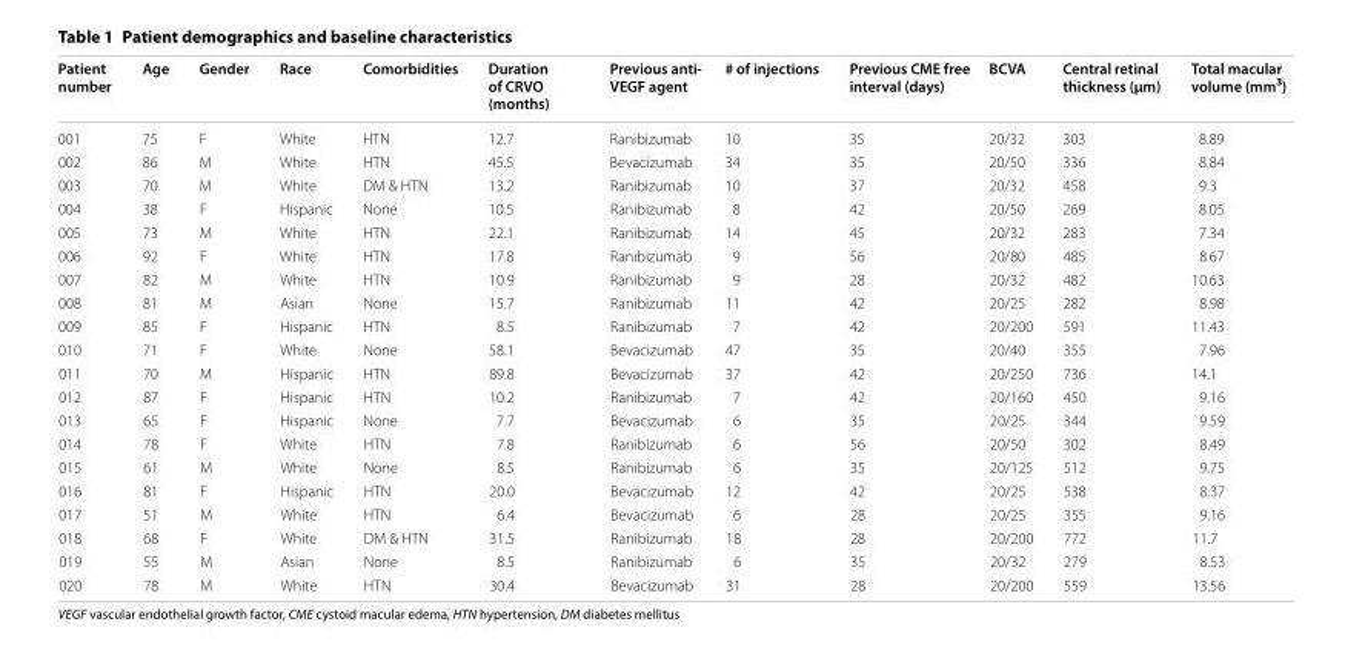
<table><thead><tr><td>Patient number</td><td>Age</td><td>Gender</td><td>Race</td><td>Comorbidities</td><td>Duration of CRVO (months)</td><td>Previous anti- VEGF agent</td><td># of injections</td><td>Previous CME free interval (days)</td><td>BCVA</td><td>Central retinal thickness (µm)</td><td>Total macular volume (mm<sup>3</sup>)</td></tr></thead><tbody><tr><td>001</td><td>75</td><td>F</td><td>White</td><td>HTN</td><td>12.7</td><td>Ranibizumab</td><td>10</td><td>35</td><td>20/32</td><td>303</td><td>8.89</td></tr><tr><td>002</td><td>86</td><td>M</td><td>White</td><td>HTN</td><td>45.5</td><td>Bevacizumab</td><td>34</td><td>35</td><td>20/50</td><td>336</td><td>8.84</td></tr><tr><td>003</td><td>70</td><td>M</td><td>White</td><td>DM &amp; HTN</td><td>13.2</td><td>Ranibizumab</td><td>10</td><td>37</td><td>20/32</td><td>458</td><td>9.3</td></tr><tr><td>004</td><td>38</td><td>F</td><td>Hispanic</td><td>None</td><td>10.5</td><td>Ranibizumab</td><td>8</td><td>42</td><td>20/50</td><td>269</td><td>8.05</td></tr><tr><td>005</td><td>73</td><td>M</td><td>White</td><td>HTN</td><td>22.1</td><td>Ranibizumab</td><td>14</td><td>45</td><td>20/32</td><td>283</td><td>7.34</td></tr><tr><td>006</td><td>92</td><td>F</td><td>White</td><td>HTN</td><td>17.8</td><td>Ranibizumab</td><td>9</td><td>56</td><td>20/80</td><td>485</td><td>8.67</td></tr><tr><td>007</td><td>82</td><td>M</td><td>White</td><td>HTN</td><td>10.9</td><td>Ranibizumab</td><td>9</td><td>28</td><td>20/32</td><td>482</td><td>10.63</td></tr><tr><td>008</td><td>81</td><td>M</td><td>Asian</td><td>None</td><td>15.7</td><td>Ranibizumab</td><td>11</td><td>42</td><td>20/25</td><td>282</td><td>8.98</td></tr><tr><td>009</td><td>85</td><td>F</td><td>Hispanic</td><td>HTN</td><td>8.5</td><td>Ranibizumab</td><td>7</td><td>42</td><td>20/200</td><td>591</td><td>11.43</td></tr><tr><td>010</td><td>71</td><td>F</td><td>White</td><td>None</td><td>58.1</td><td>Bevacizumab</td><td>47</td><td>35</td><td>20/40</td><td>355</td><td>7.96</td></tr><tr><td>011</td><td>70</td><td>M</td><td>Hispanic</td><td>HTN</td><td>89.8</td><td>Bevacizumab</td><td>37</td><td>42</td><td>20/250</td><td>736</td><td>14.1</td></tr><tr><td>012</td><td>87</td><td>F</td><td>Hispanic</td><td>HTN</td><td>10.2</td><td>Ranibizumab</td><td>7</td><td>42</td><td>20/160</td><td>450</td><td>9.16</td></tr><tr><td>013</td><td>65</td><td>F</td><td>Hispanic</td><td>None</td><td>7.7</td><td>Bevacizumab</td><td>6</td><td>35</td><td>20/25</td><td>344</td><td>9.59</td></tr><tr><td>014</td><td>78</td><td>F</td><td>White</td><td>HTN</td><td>7.8</td><td>Ranibizumab</td><td>6</td><td>56</td><td>20/50</td><td>302</td><td>8.49</td></tr><tr><td>015</td><td>61</td><td>M</td><td>White</td><td>None</td><td>8.5</td><td>Ranibizumab</td><td>6</td><td>35</td><td>20/125</td><td>512</td><td>9.75</td></tr><tr><td>016</td><td>81</td><td>F</td><td>Hispanic</td><td>HTN</td><td>20.0</td><td>Bevacizumab</td><td>12</td><td>42</td><td>20/25</td><td>538</td><td>8.37</td></tr><tr><td>017</td><td>51</td><td>M</td><td>White</td><td>HTN</td><td>6.4</td><td>Bevacizumab</td><td>6</td><td>28</td><td>20/25</td><td>355</td><td>9.16</td></tr><tr><td>018</td><td>68</td><td>F</td><td>White</td><td>DM &amp; HTN</td><td>31.5</td><td>Ranibizumab</td><td>18</td><td>28</td><td>20/200</td><td>772</td><td>11.7</td></tr><tr><td>019</td><td>55</td><td>M</td><td>Asian</td><td>None</td><td>8.5</td><td>Ranibizumab</td><td>6</td><td>35</td><td>20/32</td><td>279</td><td>8.53</td></tr><tr><td>020</td><td>78</td><td>M</td><td>White</td><td>HTN</td><td>30.4</td><td>Bevacizumab</td><td>31</td><td>28</td><td>20/200</td><td>559</td><td>13.56</td></tr></tbody></table>